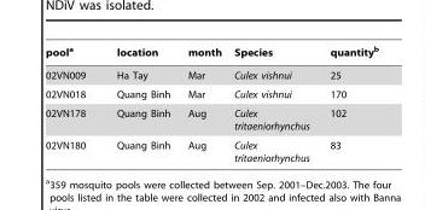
<table><thead><tr><td>pool<sup>a</sup></td><td>location</td><td>month</td><td>Species</td><td>quantity<sup>b</sup></td></tr></thead><tbody><tr><td>02VN009</td><td>Ha Tay</td><td>Mar</td><td>Culex vishnui</td><td>25</td></tr><tr><td>02VN018</td><td>Quang Binh</td><td>Mar</td><td>Culex vishnui</td><td>170</td></tr><tr><td>02VN178</td><td>Quang Binh</td><td>Aug</td><td>Culex tritaeniorhynchus</td><td>102</td></tr><tr><td>02VN180</td><td>Quang Binh</td><td>Aug</td><td>Culex tritaeniorhynchus</td><td>83</td></tr></tbody></table>